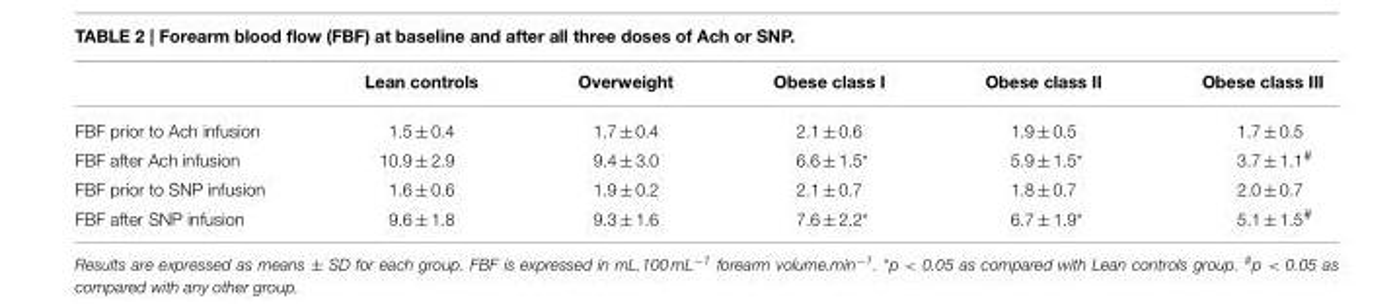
<table><thead><tr><td></td><td>Lean controls</td><td>Overweight</td><td>Obese class I</td><td>Obese class II</td><td>Obese class III</td></tr></thead><tbody><tr><td>FBF prior to Ach infusion</td><td>1.5 ± 0.4</td><td>1.7 ± 0.4</td><td>2.1 ± 0.6</td><td>1.9 ± 0.5</td><td>1.7 ± 0.5</td></tr><tr><td>FBF after Ach infusion</td><td>10.9 ± 2.9</td><td>9.4 ± 3.0</td><td>6.6 ± 1.5*</td><td>5.9 ± 1.5*</td><td>3.7 ± 1.1<sup>#</sup></td></tr><tr><td>FBF prior to SNP infusion</td><td>1.6 ± 0.6</td><td>1.9 ± 0.2</td><td>2.1 ± 0.7</td><td>1.8 ± 0.7</td><td>2.0 ± 0.7</td></tr><tr><td>FBF after SNP infusion</td><td>9.6 ± 1.8</td><td>9.3 ± 1.6</td><td>7.6 ± 2.2*</td><td>6.7 ± 1.9*</td><td>5.1 ± 1.5<sup>#</sup></td></tr></tbody></table>